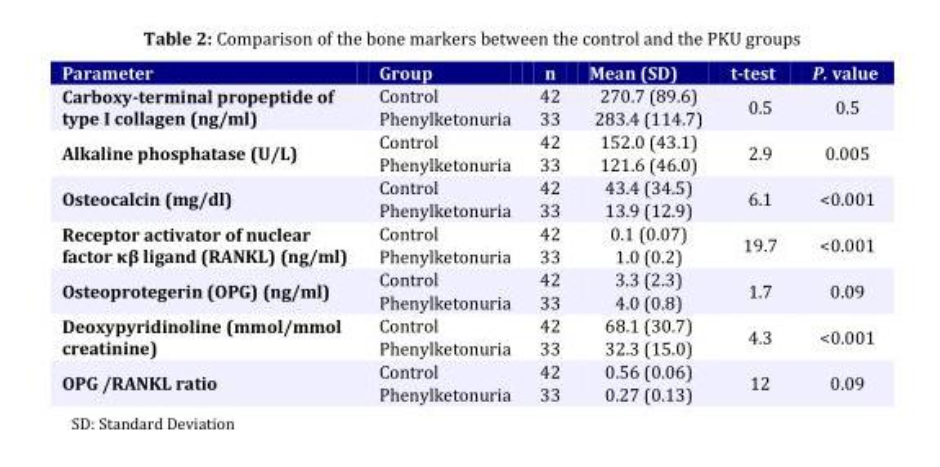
<table><thead><tr><td>Parameter</td><td>Group</td><td>n</td><td>Mean (SD)</td><td>t-test</td><td>P. value</td></tr></thead><tbody><tr><td rowspan="2">Carboxy-terminal propeptide of type I collagen (ng/ml)</td><td>Control</td><td>42</td><td>270.7 (89.6)</td><td rowspan="2">0.5</td><td rowspan="2">0.5</td></tr><tr><td>Phenylketonuria</td><td>33</td><td>283.4 (114.7)</td></tr><tr><td rowspan="2">Alkaline phosphatase (U/L)</td><td>Control</td><td>42</td><td>152.0 (43.1)</td><td rowspan="2">2.9</td><td rowspan="2">0.005</td></tr><tr><td>Phenylketonuria</td><td>33</td><td>121.6 (46.0)</td></tr><tr><td rowspan="2">Osteocalcin (mg/dl)</td><td>Control</td><td>42</td><td>43.4 (34.5)</td><td rowspan="2">6.1</td><td rowspan="2">&lt;0.001</td></tr><tr><td>Phenylketonuria</td><td>33</td><td>13.9 (12.9)</td></tr><tr><td rowspan="2">Receptor activator of nuclear factor κβ ligand (RANKL) (ng/ml)</td><td>Control</td><td>42</td><td>0.1 (0.07)</td><td rowspan="2">19.7</td><td rowspan="2">&lt;0.001</td></tr><tr><td>Phenylketonuria</td><td>33</td><td>1.0 (0.2)</td></tr><tr><td rowspan="2">Osteoprotegerin (OPG) (ng/ml)</td><td>Control</td><td>42</td><td>3.3 (2.3)</td><td rowspan="2">1.7</td><td rowspan="2">0.09</td></tr><tr><td>Phenylketonuria</td><td>33</td><td>4.0 (0.8)</td></tr><tr><td rowspan="2">Deoxypyridinoline (mmol/mmol creatinine)</td><td>Control</td><td>42</td><td>68.1 (30.7)</td><td rowspan="2">4.3</td><td rowspan="2">&lt;0.001</td></tr><tr><td>Phenylketonuria</td><td>33</td><td>32.3 (15.0)</td></tr><tr><td rowspan="2">OPG /RANKL ratio</td><td>Control</td><td>42</td><td>0.56 (0.06)</td><td rowspan="2">12</td><td rowspan="2">0.09</td></tr><tr><td>Phenylketonuria</td><td>33</td><td>0.27 (0.13)</td></tr></tbody></table>